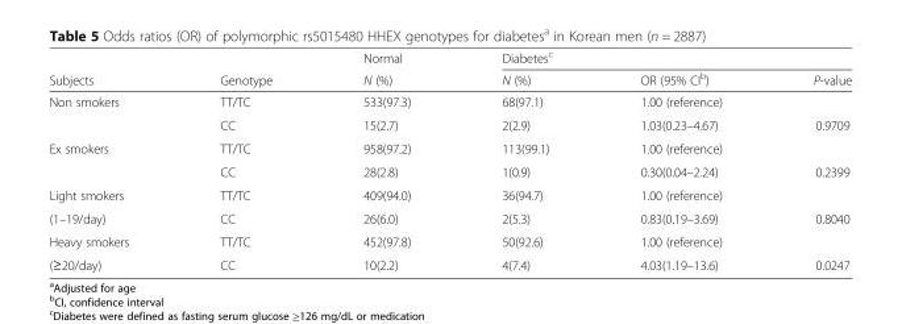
<table><thead><tr><td rowspan="2">Subjects</td><td rowspan="2">Genotype</td><td rowspan="2">Normal N (%)</td><td colspan="3">Diabetes<sup>c</sup></td></tr><tr><td>N (%)</td><td>OR (95% CI<sup>b</sup>)</td><td>P-value</td></tr></thead><tbody><tr><td rowspan="2">Non smokers</td><td>TT/TC</td><td>533(97.3)</td><td>68(97.1)</td><td>1.00 (reference)</td><td></td></tr><tr><td>CC</td><td>15(2.7)</td><td>2(2.9)</td><td>1.03(0.23–4.67)</td><td>0.9709</td></tr><tr><td rowspan="2">Ex smokers</td><td>TT/TC</td><td>958(97.2)</td><td>113(99.1)</td><td>1.00 (reference)</td><td></td></tr><tr><td>CC</td><td>28(2.8)</td><td>1(0.9)</td><td>0.30(0.04–2.24)</td><td>0.2399</td></tr><tr><td>Light smokers</td><td>TT/TC</td><td>409(94.0)</td><td>36(94.7)</td><td>1.00 (reference)</td><td></td></tr><tr><td>(1–19/day)</td><td>CC</td><td>26(6.0)</td><td>2(5.3)</td><td>0.83(0.19–3.69)</td><td>0.8040</td></tr><tr><td>Heavy smokers</td><td>TT/TC</td><td>452(97.8)</td><td>50(92.6)</td><td>1.00 (reference)</td><td></td></tr><tr><td>(≥20/day)</td><td>CC</td><td>10(2.2)</td><td>4(7.4)</td><td>4.03(1.19–13.6)</td><td>0.0247</td></tr></tbody></table>